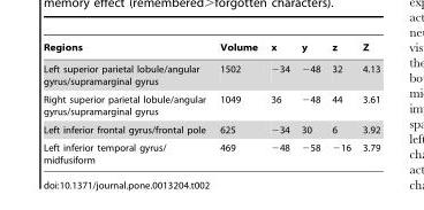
<table><thead><tr><td>Regions</td><td>Volume</td><td>x</td><td>y</td><td>z</td><td>Z</td></tr></thead><tbody><tr><td>Left superior parietal lobule/angular gyrus/supramarginal gyrus</td><td>1502</td><td>−34</td><td>−48</td><td>32</td><td>4.13</td></tr><tr><td>Right superior parietal lobule/angular gyrus/supramarginal gyrus</td><td>1049</td><td>36</td><td>−48</td><td>44</td><td>3.61</td></tr><tr><td>Left inferior frontal gyrus/frontal pole</td><td>625</td><td>−34</td><td>30</td><td>6</td><td>3.92</td></tr><tr><td>Left inferior temporal gyrus/ midfusiform</td><td>469</td><td>−48</td><td>−58</td><td>−16</td><td>3.79</td></tr></tbody></table>